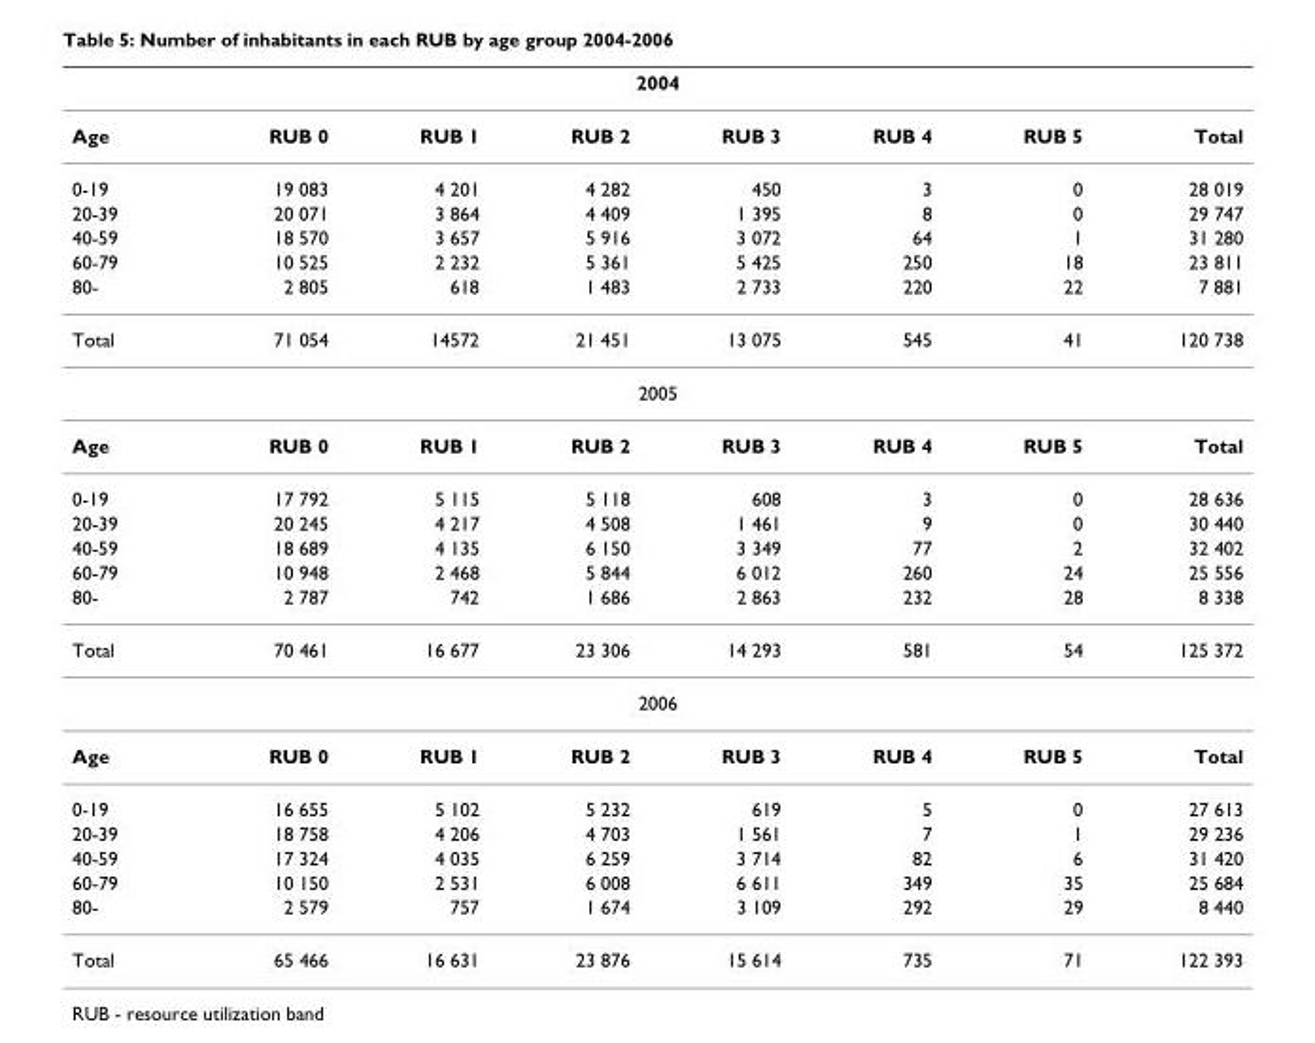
<table><thead><tr><td colspan="8">2004</td></tr><tr><td>Age</td><td>RUB 0</td><td>RUB 1</td><td>RUB 2</td><td>RUB 3</td><td>RUB 4</td><td>RUB 5</td><td>Total</td></tr></thead><tbody><tr><td>0-19</td><td>19 083</td><td>4 201</td><td>4 282</td><td>450</td><td>3</td><td>0</td><td>28 019</td></tr><tr><td>20-39</td><td>20 071</td><td>3 864</td><td>4 409</td><td>1 395</td><td>8</td><td>0</td><td>29 747</td></tr><tr><td>40-59</td><td>18 570</td><td>3 657</td><td>5 916</td><td>3 072</td><td>64</td><td>1</td><td>31 280</td></tr><tr><td>60-79</td><td>10 525</td><td>2 232</td><td>5 361</td><td>5 425</td><td>250</td><td>18</td><td>23 811</td></tr><tr><td>80-</td><td>2 805</td><td>618</td><td>1 483</td><td>2 733</td><td>220</td><td>22</td><td>7 881</td></tr><tr><td>Total</td><td>71 054</td><td>14572</td><td>21 451</td><td>13 075</td><td>545</td><td>41</td><td>120 738</td></tr><tr><td colspan="8">2005</td></tr><tr><td>Age</td><td>RUB 0</td><td>RUB 1</td><td>RUB 2</td><td>RUB 3</td><td>RUB 4</td><td>RUB 5</td><td>Total</td></tr><tr><td>0-19</td><td>17 792</td><td>5 115</td><td>5 118</td><td>608</td><td>3</td><td>0</td><td>28 636</td></tr><tr><td>20-39</td><td>20 245</td><td>4 217</td><td>4 508</td><td>1 461</td><td>9</td><td>0</td><td>30 440</td></tr><tr><td>40-59</td><td>18 689</td><td>4 135</td><td>6 150</td><td>3 349</td><td>77</td><td>2</td><td>32 402</td></tr><tr><td>60-79</td><td>10 948</td><td>2 468</td><td>5 844</td><td>6 012</td><td>260</td><td>24</td><td>25 556</td></tr><tr><td>80-</td><td>2 787</td><td>742</td><td>1 686</td><td>2 863</td><td>232</td><td>28</td><td>8 338</td></tr><tr><td>Total</td><td>70 461</td><td>16 677</td><td>23 306</td><td>14 293</td><td>581</td><td>54</td><td>125 372</td></tr><tr><td colspan="8">2006</td></tr><tr><td>Age</td><td>RUB 0</td><td>RUB 1</td><td>RUB 2</td><td>RUB 3</td><td>RUB 4</td><td>RUB 5</td><td>Total</td></tr><tr><td>0-19</td><td>16 655</td><td>5 102</td><td>5 232</td><td>619</td><td>5</td><td>0</td><td>27 613</td></tr><tr><td>20-39</td><td>18 758</td><td>4 206</td><td>4 703</td><td>1 561</td><td>7</td><td>1</td><td>29 236</td></tr><tr><td>40-59</td><td>17 324</td><td>4 035</td><td>6 259</td><td>3 714</td><td>82</td><td>6</td><td>31 420</td></tr><tr><td>60-79</td><td>10 150</td><td>2 531</td><td>6 008</td><td>6 611</td><td>349</td><td>35</td><td>25 684</td></tr><tr><td>80-</td><td>2 579</td><td>757</td><td>1 674</td><td>3 109</td><td>292</td><td>29</td><td>8 440</td></tr><tr><td>Total</td><td>65 466</td><td>16 631</td><td>23 876</td><td>15 614</td><td>735</td><td>71</td><td>122 393</td></tr></tbody></table>